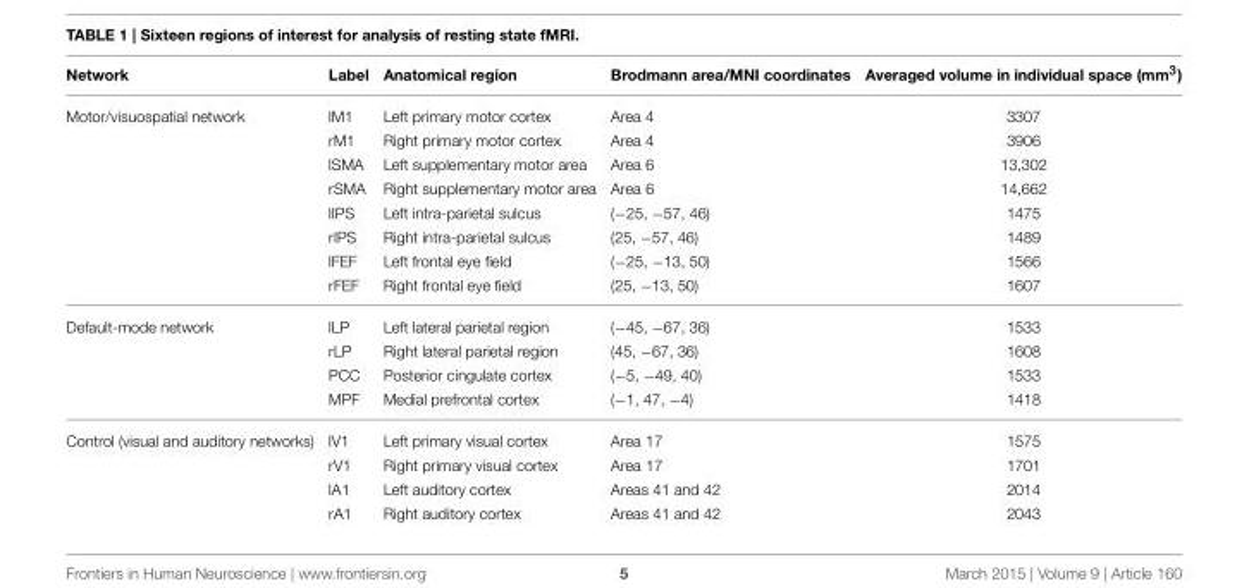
<table><thead><tr><td>Network</td><td>Label</td><td>Anatomical region</td><td>Brodmann area/MNI coordinates</td><td>Averaged volume in individual space (mm<sup>3</sup>)</td></tr></thead><tbody><tr><td rowspan="8">Motor/visuospatial network</td><td>lM1</td><td>Left primary motor cortex</td><td>Area 4</td><td>3307</td></tr><tr><td>rM1</td><td>Right primary motor cortex</td><td>Area 4</td><td>3906</td></tr><tr><td>lSMA</td><td>Left supplementary motor area</td><td>Area 6</td><td>13,302</td></tr><tr><td>rSMA</td><td>Right supplementary motor area</td><td>Area 6</td><td>14,662</td></tr><tr><td>lIPS</td><td>Left intra-parietal sulcus</td><td>(−25, −57, 46)</td><td>1475</td></tr><tr><td>rIPS</td><td>Right intra-parietal sulcus</td><td>(25, −57, 46)</td><td>1489</td></tr><tr><td>lFEF</td><td>Left frontal eye field</td><td>(−25, −13, 50)</td><td>1566</td></tr><tr><td>rFEF</td><td>Right frontal eye field</td><td>(25, −13, 50)</td><td>1607</td></tr><tr><td rowspan="4">Default-mode network</td><td>lLP</td><td>Left lateral parietal region</td><td>(−45, −67, 36)</td><td>1533</td></tr><tr><td>rLP</td><td>Right lateral parietal region</td><td>(45, −67, 36)</td><td>1608</td></tr><tr><td>PCC</td><td>Posterior cingulate cortex</td><td>(−5, −49, 40)</td><td>1533</td></tr><tr><td>MPF</td><td>Medial prefrontal cortex</td><td>(−1, 47, −4)</td><td>1418</td></tr><tr><td rowspan="4">Control (visual and auditory networks)</td><td>lV1</td><td>Left primary visual cortex</td><td>Area 17</td><td>1575</td></tr><tr><td>rV1</td><td>Right primary visual cortex</td><td>Area 17</td><td>1701</td></tr><tr><td>lA1</td><td>Left auditory cortex</td><td>Areas 41 and 42</td><td>2014</td></tr><tr><td>rA1</td><td>Right auditory cortex</td><td>Areas 41 and 42</td><td>2043</td></tr></tbody></table>